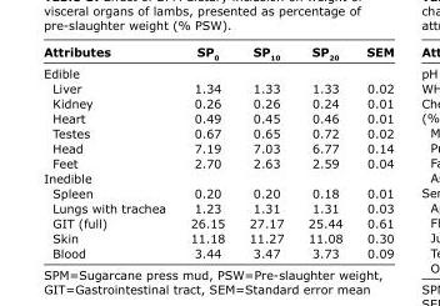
<table><thead><tr><td>Attributes</td><td>SP<sub>0</sub></td><td>SP<sub>10</sub></td><td>SP<sub>20</sub></td><td>SEM</td></tr></thead><tbody><tr><td colspan="5">Edible</td></tr><tr><td>Liver</td><td>1.34</td><td>1.33</td><td>1.33</td><td>0.02</td></tr><tr><td>Kidney</td><td>0.26</td><td>0.26</td><td>0.24</td><td>0.01</td></tr><tr><td>Heart</td><td>0.49</td><td>0.45</td><td>0.46</td><td>0.01</td></tr><tr><td>Testes</td><td>0.67</td><td>0.65</td><td>0.72</td><td>0.02</td></tr><tr><td>Head</td><td>7.19</td><td>7.03</td><td>6.77</td><td>0.14</td></tr><tr><td>Feet</td><td>2.70</td><td>2.63</td><td>2.59</td><td>0.04</td></tr><tr><td colspan="5">Inedible</td></tr><tr><td>Spleen</td><td>0.20</td><td>0.20</td><td>0.18</td><td>0.01</td></tr><tr><td>Lungs with trachea</td><td>1.23</td><td>1.31</td><td>1.31</td><td>0.03</td></tr><tr><td>GIT (full)</td><td>26.15</td><td>27.17</td><td>25.44</td><td>0.61</td></tr><tr><td>Skin</td><td>11.18</td><td>11.27</td><td>11.08</td><td>0.30</td></tr><tr><td>Blood</td><td>3.44</td><td>3.47</td><td>3.73</td><td>0.09</td></tr></tbody></table>